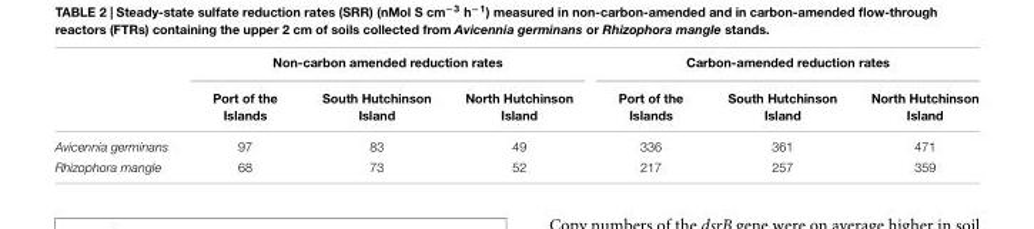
<table><thead><tr><td rowspan="2"></td><td colspan="3">Non-carbon amended reduction rates</td><td colspan="3">Carbon-amended reduction rates</td></tr><tr><td>Port of the Islands</td><td>South Hutchinson Island</td><td>North Hutchinson Island</td><td>Port of the Islands</td><td>South Hutchinson Island</td><td>North Hutchinson Island</td></tr></thead><tbody><tr><td>Avicennia germinans</td><td>97</td><td>83</td><td>49</td><td>336</td><td>361</td><td>471</td></tr><tr><td>Rhizophora mangle</td><td>68</td><td>73</td><td>52</td><td>217</td><td>257</td><td>359</td></tr></tbody></table>